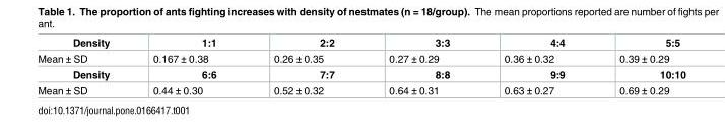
<table><tbody><tr><td>Density</td><td>1:1</td><td>2:2</td><td>3:3</td><td>4:4</td><td>5:5</td></tr><tr><td>Mean ± SD</td><td>0.167 ± 0.38</td><td>0.26 ± 0.35</td><td>0.27 ± 0.29</td><td>0.36 ± 0.32</td><td>0.39 ± 0.29</td></tr><tr><td>Density</td><td>6:6</td><td>7:7</td><td>8:8</td><td>9:9</td><td>10:10</td></tr><tr><td>Mean ± SD</td><td>0.44 ± 0.30</td><td>0.52 ± 0.32</td><td>0.64 ± 0.31</td><td>0.63 ± 0.27</td><td>0.69 ± 0.29</td></tr></tbody></table>